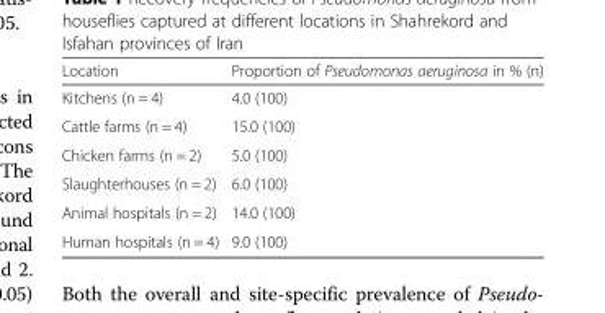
<table><thead><tr><td>Location</td><td>Proportion of Pseudomonas aeruginosa in % (n)</td></tr></thead><tbody><tr><td>Kitchens (n = 4)</td><td>4.0 (100)</td></tr><tr><td>Cattle farms (n = 4)</td><td>15.0 (100)</td></tr><tr><td>Chicken farms (n = 2)</td><td>5.0 (100)</td></tr><tr><td>Slaughterhouses (n = 2)</td><td>6.0 (100)</td></tr><tr><td>Animal hospitals (n = 2)</td><td>14.0 (100)</td></tr><tr><td>Human hospitals (n = 4)</td><td>9.0 (100)</td></tr></tbody></table>